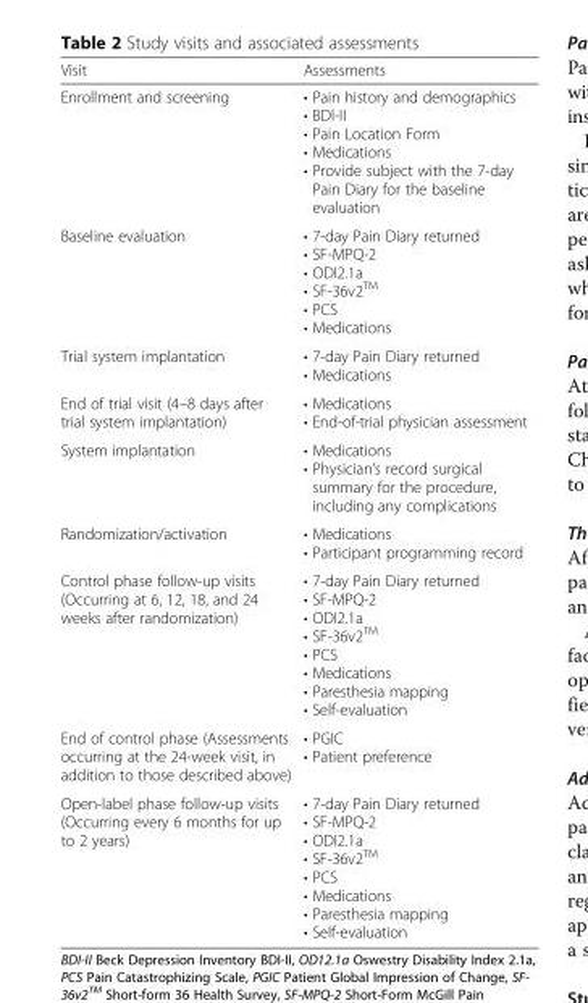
<table><thead><tr><td>Visit</td><td>Assessments</td></tr></thead><tbody><tr><td>Enrollment and screening</td><td>• Pain history and demographics • BDI-II • Pain Location Form • Medications • Provide subject with the 7-day Pain Diary for the baseline evaluation</td></tr><tr><td>Baseline evaluation</td><td>• 7-day Pain Diary returned • SF-MPQ-2 • ODI2.1a • SF-36v2<sup>TM</sup> • PCS • Medications</td></tr><tr><td>Trial system implantation</td><td>• 7-day Pain Diary returned • Medications</td></tr><tr><td>End of trial visit (4–8 days after trial system implantation)</td><td>• Medications • End-of-trial physician assessment</td></tr><tr><td>System implantation</td><td>• Medications • Physician’s record surgical summary for the procedure, including any complications</td></tr><tr><td>Randomization/activation</td><td>• Medications • Participant programming record</td></tr><tr><td>Control phase follow-up visits (Occurring at 6, 12, 18, and 24 weeks after randomization)</td><td>• 7-day Pain Diary returned • SF-MPQ-2 • ODI2.1a • SF-36v2<sup>TM</sup> • PCS • Medications • Paresthesia mapping • Self-evaluation</td></tr><tr><td>End of control phase (Assessments occurring at the 24-week visit, in addition to those described above)</td><td>• PGIC • Patient preference</td></tr><tr><td>Open-label phase follow-up visits (Occurring every 6 months for up to 2 years)</td><td>• 7-day Pain Diary returned • SF-MPQ-2 • ODI2.1a • SF-36v2<sup>TM</sup> • PCS • Medications • Paresthesia mapping • Self-evaluation</td></tr></tbody></table>